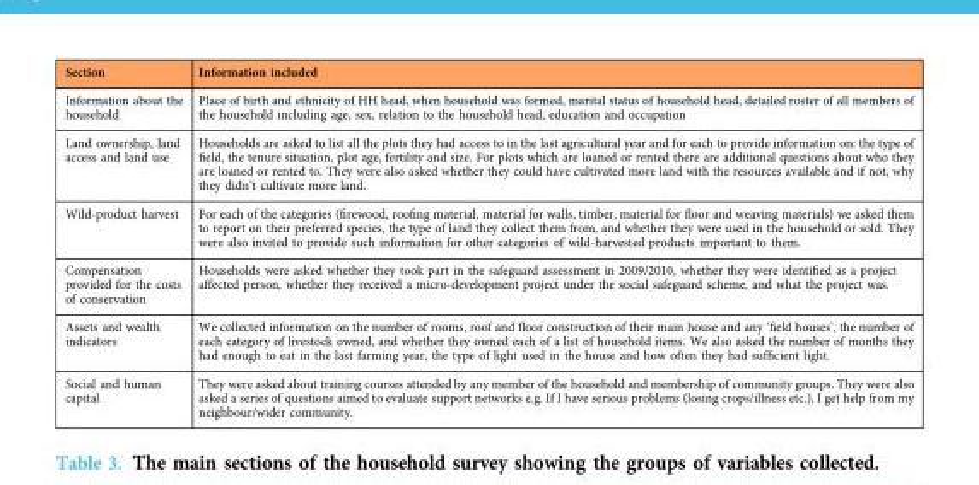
<table><thead><tr><td>Section</td><td>Information included</td></tr></thead><tbody><tr><td>Information about the household</td><td>Place of birth and ethnicity of HH head, when household was formed, marital status of household head, detailed roster of all members of the household including age, sex, relation to the household head, education and occupation</td></tr><tr><td>Land ownership, land access and land use</td><td>Households are asked to list all the plots they had access to in the last agricultural year and for each to provide information on: the type of field, the tenure situation, plot age, fertility and size. For plots which are loaned or rented there are additional questions about who they are loaned or rented to. They were also asked whether they could have cultivated more land with the resources available and if not, why they didn’t cultivate more land.</td></tr><tr><td>Wild-product harvest</td><td>For each of the categories (firewood, roofing material, material for walls, timber, material for floor and weaving materials) we asked them to report on their preferred species, the type of land they collect them from, and whether they were used in the household or sold. They were also invited to provide such information for other categories of wild-harvested products important to them.</td></tr><tr><td>Compensation provided for the costs of conservation</td><td>Households were asked whether they took part in the safeguard assessment in 2009/2010, whether they were identified as a project affected person, whether they received a micro-development project under the social safeguard scheme, and what the project was.</td></tr><tr><td>Assets and wealth indicators</td><td>We collected information on the number of rooms, roof and floor construction of their main house and any ‘field houses’, the number of each category of livestock owned, and whether they owned each of a list of household items. We also asked the number of months they had enough to eat in the last farming year, the type of light used in the house and how often they had sufficient light.</td></tr><tr><td>Social and human capital</td><td>They were asked about training courses attended by any member of the household and membership of community groups. They were also asked a series of questions aimed to evaluate support networks e.g. If I have serious problems (losing crops/illness etc.), I get help from my neighbour/wider community.</td></tr></tbody></table>